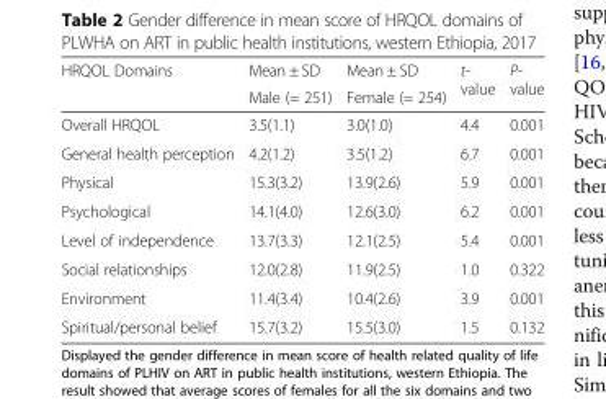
<table><thead><tr><td rowspan="2">HRQOL Domains</td><td rowspan="2">Mean ± SD Male (= 251)</td><td rowspan="2">Mean ± SD Female (= 254)</td><td rowspan="2">t- value</td><td rowspan="2">P- value</td></tr><tr></tr></thead><tbody><tr><td>Overall HRQOL</td><td>3.5(1.1)</td><td>3.0(1.0)</td><td>4.4</td><td>0.001</td></tr><tr><td>General health perception</td><td>4.2(1.2)</td><td>3.5(1.2)</td><td>6.7</td><td>0.001</td></tr><tr><td>Physical</td><td>15.3(3.2)</td><td>13.9(2.6)</td><td>5.9</td><td>0.001</td></tr><tr><td>Psychological</td><td>14.1(4.0)</td><td>12.6(3.0)</td><td>6.2</td><td>0.001</td></tr><tr><td>Level of independence</td><td>13.7(3.3)</td><td>12.1(2.5)</td><td>5.4</td><td>0.001</td></tr><tr><td>Social relationships</td><td>12.0(2.8)</td><td>11.9(2.5)</td><td>1.0</td><td>0.322</td></tr><tr><td>Environment</td><td>11.4(3.4)</td><td>10.4(2.6)</td><td>3.9</td><td>0.001</td></tr><tr><td>Spiritual/personal belief</td><td>15.7(3.2)</td><td>15.5(3.0)</td><td>1.5</td><td>0.132</td></tr></tbody></table>